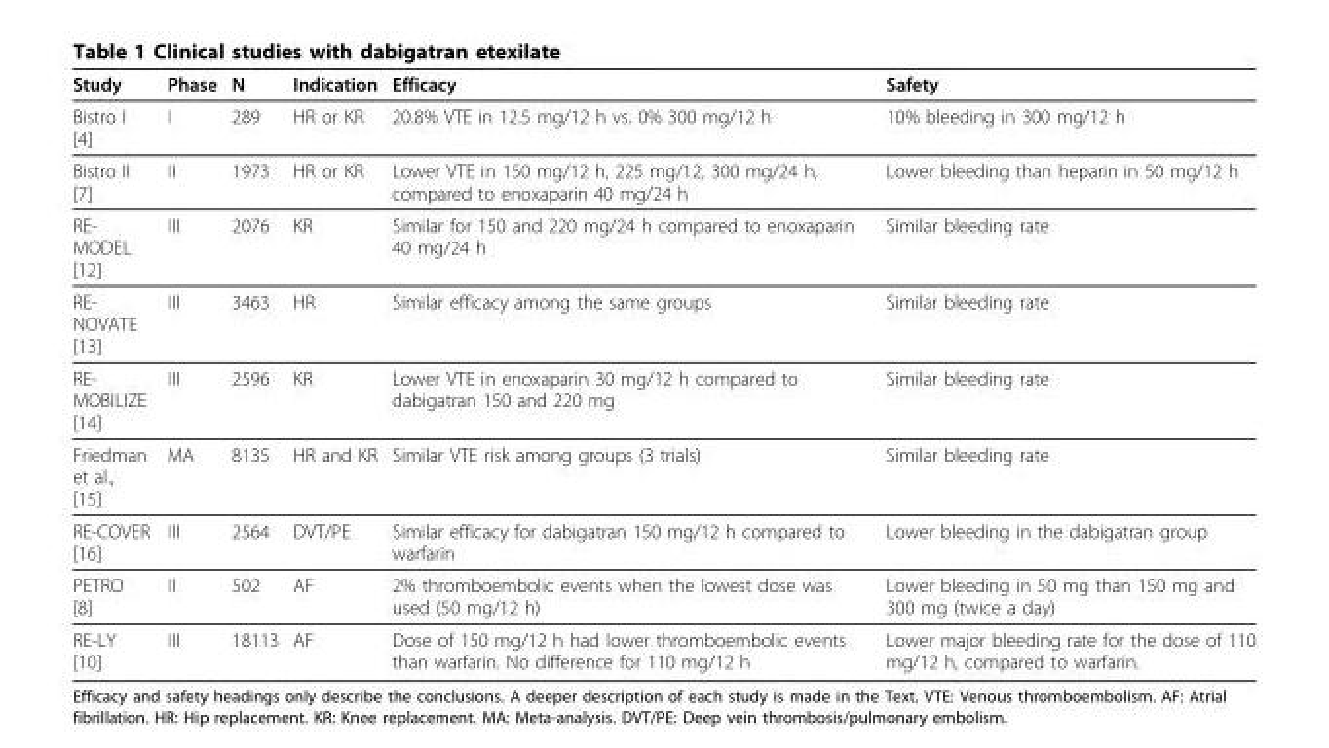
<table><thead><tr><td>Study</td><td>Phase</td><td>N</td><td>Indication</td><td>Efficacy</td><td>Safety</td></tr></thead><tbody><tr><td>Bistro I [4]</td><td>I</td><td>289</td><td>HR or KR</td><td>20.8% VTE in 12.5 mg/12 h vs. 0% 300 mg/12 h</td><td>10% bleeding in 300 mg/12 h</td></tr><tr><td>Bistro II [7]</td><td>II</td><td>1973</td><td>HR or KR</td><td>Lower VTE in 150 mg/12 h, 225 mg/12, 300 mg/24 h, compared to enoxaparin 40 mg/24 h</td><td>Lower bleeding than heparin in 50 mg/12 h</td></tr><tr><td>RE- MODEL [12]</td><td>III</td><td>2076</td><td>KR</td><td>Similar for 150 and 220 mg/24 h compared to enoxaparin 40 mg/24 h</td><td>Similar bleeding rate</td></tr><tr><td>RE- NOVATE [13]</td><td>III</td><td>3463</td><td>HR</td><td>Similar efficacy among the same groups</td><td>Similar bleeding rate</td></tr><tr><td>RE- MOBILIZE [14]</td><td>III</td><td>2596</td><td>KR</td><td>Lower VTE in enoxaparin 30 mg/12 h compared to dabigatran 150 and 220 mg</td><td>Similar bleeding rate</td></tr><tr><td>Friedman et al., [15]</td><td>MA</td><td>8135</td><td>HR and KR</td><td>Similar VTE risk among groups (3 trials)</td><td>Similar bleeding rate</td></tr><tr><td>RE-COVER [16]</td><td>III</td><td>2564</td><td>DVT/PE</td><td>Similar efficacy for dabigatran 150 mg/12 h compared to warfarin</td><td>Lower bleeding in the dabigatran group</td></tr><tr><td>PETRO [8]</td><td>II</td><td>502</td><td>AF</td><td>2% thromboembolic events when the lowest dose was used (50 mg/12 h)</td><td>Lower bleeding in 50 mg than 150 mg and 300 mg (twice a day)</td></tr><tr><td>RE-LY [10]</td><td>III</td><td>18113</td><td>AF</td><td>Dose of 150 mg/12 h had lower thromboembolic events than warfarin. No difference for 110 mg/12 h</td><td>Lower major bleeding rate for the dose of 110 mg/12 h, compared to warfarin.</td></tr></tbody></table>